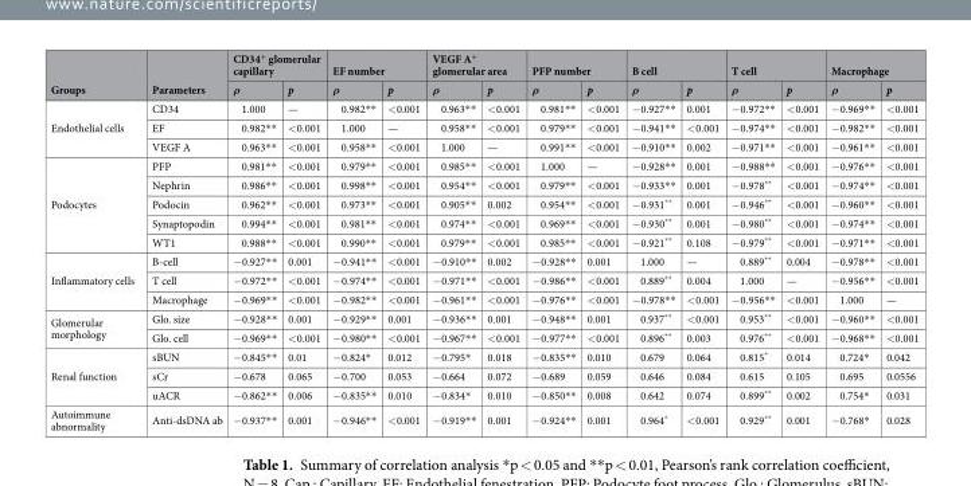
<table><thead><tr><td rowspan="2">Groups</td><td rowspan="2">Parameters</td><td colspan="2">CD34<sup>+</sup> glomerular capillary</td><td colspan="2">EF number</td><td colspan="2">VEGF A<sup>+</sup> glomerular area</td><td colspan="2">PFP number</td><td colspan="2">B cell</td><td colspan="2">T cell</td><td colspan="2">Macrophage</td></tr><tr><td>ρ</td><td>p</td><td>ρ</td><td>p</td><td>ρ</td><td>p</td><td>ρ</td><td>p</td><td>ρ</td><td>p</td><td>ρ</td><td>p</td><td>ρ</td><td>p</td></tr></thead><tbody><tr><td rowspan="3">Endothelial cells</td><td>CD34</td><td>1.000</td><td>—</td><td>0.982**</td><td>&lt;0.001</td><td>0.963**</td><td>&lt;0.001</td><td>0.981**</td><td>&lt;0.001</td><td>−0.927**</td><td>0.001</td><td>−0.972**</td><td>&lt;0.001</td><td>−0.969**</td><td>&lt;0.001</td></tr><tr><td>EF</td><td>0.982**</td><td>&lt;0.001</td><td>1.000</td><td>—</td><td>0.958**</td><td>&lt;0.001</td><td>0.979**</td><td>&lt;0.001</td><td>−0.941**</td><td>&lt;0.001</td><td>−0.974**</td><td>&lt;0.001</td><td>−0.982**</td><td>&lt;0.001</td></tr><tr><td>VEGF A</td><td>0.963**</td><td>&lt;0.001</td><td>0.958**</td><td>&lt;0.001</td><td>1.000</td><td>—</td><td>0.991**</td><td>&lt;0.001</td><td>−0.910**</td><td>0.002</td><td>−0.971**</td><td>&lt;0.001</td><td>−0.961**</td><td>&lt;0.001</td></tr><tr><td rowspan="5">Podocytes</td><td>PFP</td><td>0.981**</td><td>&lt;0.001</td><td>0.979**</td><td>&lt;0.001</td><td>0.985**</td><td>&lt;0.001</td><td>1.000</td><td>—</td><td>−0.928**</td><td>0.001</td><td>−0.988**</td><td>&lt;0.001</td><td>−0.976**</td><td>&lt;0.001</td></tr><tr><td>Nephrin</td><td>0.986**</td><td>&lt;0.001</td><td>0.998**</td><td>&lt;0.001</td><td>0.954**</td><td>&lt;0.001</td><td>0.979**</td><td>&lt;0.001</td><td>−0.933**</td><td>0.001</td><td>−0.978**</td><td>&lt;0.001</td><td>−0.974**</td><td>&lt;0.001</td></tr><tr><td>Podocin</td><td>0.962**</td><td>&lt;0.001</td><td>0.973**</td><td>&lt;0.001</td><td>0.905**</td><td>0.002</td><td>0.954**</td><td>&lt;0.001</td><td>−0.931**</td><td>0.001</td><td>−0.946**</td><td>&lt;0.001</td><td>−0.960**</td><td>&lt;0.001</td></tr><tr><td>Synaptopodin</td><td>0.994**</td><td>&lt;0.001</td><td>0.981**</td><td>&lt;0.001</td><td>0.974**</td><td>&lt;0.001</td><td>0.969**</td><td>&lt;0.001</td><td>−0.930**</td><td>0.001</td><td>−0.980**</td><td>&lt;0.001</td><td>−0.974**</td><td>&lt;0.001</td></tr><tr><td>WT1</td><td>0.988**</td><td>&lt;0.001</td><td>0.990**</td><td>&lt;0.001</td><td>0.979**</td><td>&lt;0.001</td><td>0.985**</td><td>&lt;0.001</td><td>−0.921**</td><td>0.108</td><td>−0.979**</td><td>&lt;0.001</td><td>−0.971**</td><td>&lt;0.001</td></tr><tr><td rowspan="3">Inflammatory cells</td><td>B-cell</td><td>−0.927**</td><td>0.001</td><td>−0.941**</td><td>&lt;0.001</td><td>−0.910**</td><td>0.002</td><td>−0.928**</td><td>0.001</td><td>1.000</td><td>—</td><td>0.889**</td><td>0.004</td><td>−0.978**</td><td>&lt;0.001</td></tr><tr><td>T cell</td><td>−0.972**</td><td>&lt;0.001</td><td>−0.974**</td><td>&lt;0.001</td><td>−0.971**</td><td>&lt;0.001</td><td>−0.986**</td><td>&lt;0.001</td><td>0.889**</td><td>0.004</td><td>1.000</td><td>—</td><td>−0.956**</td><td>&lt;0.001</td></tr><tr><td>Macrophage</td><td>−0.969**</td><td>&lt;0.001</td><td>−0.982**</td><td>&lt;0.001</td><td>−0.961**</td><td>&lt;0.001</td><td>−0.976**</td><td>&lt;0.001</td><td>−0.978**</td><td>&lt;0.001</td><td>−0.956**</td><td>&lt;0.001</td><td>1.000</td><td>—</td></tr><tr><td rowspan="2">Glomerular morphology</td><td>Glo. size</td><td>−0.928**</td><td>0.001</td><td>−0.929**</td><td>0.001</td><td>−0.936**</td><td>0.001</td><td>−0.948**</td><td>0.001</td><td>0.937**</td><td>&lt;0.001</td><td>0.953**</td><td>&lt;0.001</td><td>−0.960**</td><td>&lt;0.001</td></tr><tr><td>Glo. cell</td><td>−0.969**</td><td>&lt;0.001</td><td>−0.980**</td><td>&lt;0.001</td><td>−0.967**</td><td>&lt;0.001</td><td>−0.977**</td><td>&lt;0.001</td><td>0.896**</td><td>0.003</td><td>0.976**</td><td>&lt;0.001</td><td>−0.968**</td><td>&lt;0.001</td></tr><tr><td rowspan="3">Renal function</td><td>sBUN</td><td>−0.845**</td><td>0.01</td><td>−0.824*</td><td>0.012</td><td>−0.795*</td><td>0.018</td><td>−0.835**</td><td>0.010</td><td>0.679</td><td>0.064</td><td>0.815*</td><td>0.014</td><td>0.724*</td><td>0.042</td></tr><tr><td>sCr</td><td>−0.678</td><td>0.065</td><td>−0.700</td><td>0.053</td><td>−0.664</td><td>0.072</td><td>−0.689</td><td>0.059</td><td>0.646</td><td>0.084</td><td>0.615</td><td>0.105</td><td>0.695</td><td>0.0556</td></tr><tr><td>uACR</td><td>−0.862**</td><td>0.006</td><td>−0.835**</td><td>0.010</td><td>−0.834*</td><td>0.010</td><td>−0.850**</td><td>0.008</td><td>0.642</td><td>0.074</td><td>0.899**</td><td>0.002</td><td>0.754*</td><td>0.031</td></tr><tr><td>Autoimmune abnormality</td><td>Anti-dsDNA ab</td><td>−0.937**</td><td>0.001</td><td>−0.946**</td><td>&lt;0.001</td><td>−0.919**</td><td>0.001</td><td>−0.924**</td><td>0.001</td><td>0.964*</td><td>&lt;0.001</td><td>0.929**</td><td>0.001</td><td>−0.768*</td><td>0.028</td></tr></tbody></table>